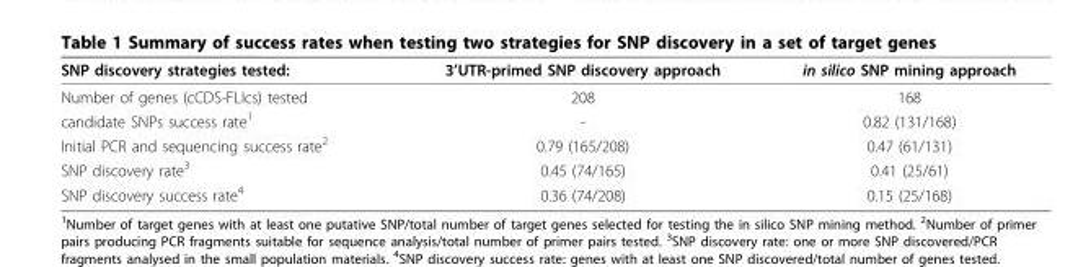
<table><thead><tr><td>SNP discovery strategies tested:</td><td>3’UTR-primed SNP discovery approach</td><td>in silico SNP mining approach</td></tr></thead><tbody><tr><td>Number of genes (cCDS-FLIcs) tested</td><td>208</td><td>168</td></tr><tr><td>candidate SNPs success rate<sup>1</sup></td><td>-</td><td>0.82 (131/168)</td></tr><tr><td>Initial PCR and sequencing success rate<sup>2</sup></td><td>0.79 (165/208)</td><td>0.47 (61/131)</td></tr><tr><td>SNP discovery rate<sup>3</sup></td><td>0.45 (74/165)</td><td>0.41 (25/61)</td></tr><tr><td>SNP discovery success rate<sup>4</sup></td><td>0.36 (74/208)</td><td>0.15 (25/168)</td></tr></tbody></table>